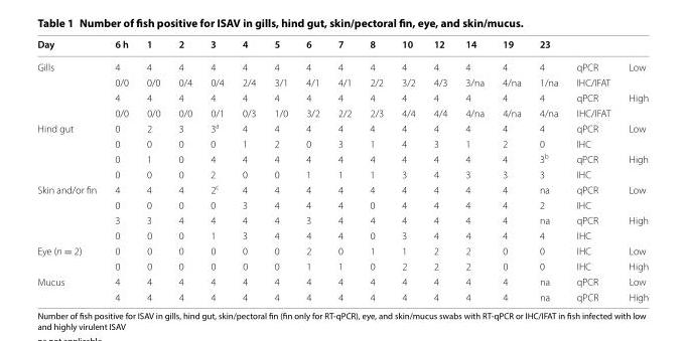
<table><thead><tr><td>Day</td><td>6 h</td><td>1</td><td>2</td><td>3</td><td>4</td><td>5</td><td>6</td><td>7</td><td>8</td><td>10</td><td>12</td><td>14</td><td>19</td><td>23</td><td></td><td></td></tr></thead><tbody><tr><td rowspan="4">Gills</td><td>4</td><td>4</td><td>4</td><td>4</td><td>4</td><td>4</td><td>4</td><td>4</td><td>4</td><td>4</td><td>4</td><td>4</td><td>4</td><td>4</td><td>qPCR</td><td rowspan="2">Low</td></tr><tr><td>0/0</td><td>0/0</td><td>0/4</td><td>0/4</td><td>2/4</td><td>3/1</td><td>4/1</td><td>4/1</td><td>2/2</td><td>3/2</td><td>4/3</td><td>3/na</td><td>4/na</td><td>1/na</td><td>IHC/IFAT</td></tr><tr><td>4</td><td>4</td><td>4</td><td>4</td><td>4</td><td>4</td><td>4</td><td>4</td><td>4</td><td>4</td><td>4</td><td>4</td><td>4</td><td>4</td><td>qPCR</td><td rowspan="2">High</td></tr><tr><td>0/0</td><td>0/0</td><td>0/0</td><td>0/1</td><td>0/3</td><td>1/0</td><td>3/2</td><td>2/2</td><td>2/3</td><td>4/4</td><td>4/4</td><td>4/na</td><td>4/na</td><td>4/na</td><td>IHC/IFAT</td></tr><tr><td rowspan="4">Hind gut</td><td>0</td><td>2</td><td>3</td><td>3<sup>a</sup></td><td>4</td><td>4</td><td>4</td><td>4</td><td>4</td><td>4</td><td>4</td><td>4</td><td>4</td><td>4</td><td>qPCR</td><td rowspan="2">Low</td></tr><tr><td>0</td><td>0</td><td>0</td><td>0</td><td>1</td><td>2</td><td>0</td><td>3</td><td>1</td><td>4</td><td>3</td><td>1</td><td>2</td><td>0</td><td>IHC</td></tr><tr><td>0</td><td>1</td><td>0</td><td>4</td><td>4</td><td>4</td><td>4</td><td>4</td><td>4</td><td>4</td><td>4</td><td>4</td><td>4</td><td>3<sup>b</sup></td><td>qPCR</td><td rowspan="2">High</td></tr><tr><td>0</td><td>0</td><td>0</td><td>2</td><td>0</td><td>0</td><td>1</td><td>1</td><td>1</td><td>3</td><td>4</td><td>3</td><td>3</td><td>3</td><td>IHC</td></tr><tr><td rowspan="4">Skin and/or fin</td><td>4</td><td>4</td><td>4</td><td>2<sup>c</sup></td><td>4</td><td>4</td><td>4</td><td>4</td><td>4</td><td>4</td><td>4</td><td>4</td><td>4</td><td>na</td><td>qPCR</td><td rowspan="2">Low</td></tr><tr><td>0</td><td>0</td><td>0</td><td>0</td><td>3</td><td>4</td><td>4</td><td>4</td><td>0</td><td>4</td><td>4</td><td>4</td><td>4</td><td>2</td><td>IHC</td></tr><tr><td>3</td><td>3</td><td>4</td><td>4</td><td>4</td><td>4</td><td>3</td><td>4</td><td>4</td><td>4</td><td>4</td><td>4</td><td>4</td><td>na</td><td>qPCR</td><td rowspan="2">High</td></tr><tr><td>0</td><td>0</td><td>0</td><td>1</td><td>3</td><td>4</td><td>4</td><td>4</td><td>0</td><td>3</td><td>4</td><td>4</td><td>4</td><td>4</td><td>IHC</td></tr><tr><td rowspan="2">Eye (n = 2)</td><td>0</td><td>0</td><td>0</td><td>0</td><td>0</td><td>0</td><td>2</td><td>0</td><td>1</td><td>1</td><td>2</td><td>2</td><td>0</td><td>0</td><td>IHC</td><td>Low</td></tr><tr><td>0</td><td>0</td><td>0</td><td>0</td><td>0</td><td>0</td><td>1</td><td>1</td><td>0</td><td>2</td><td>2</td><td>2</td><td>0</td><td>0</td><td>IHC</td><td>High</td></tr><tr><td rowspan="2">Mucus</td><td>4</td><td>4</td><td>4</td><td>4</td><td>4</td><td>4</td><td>4</td><td>4</td><td>4</td><td>4</td><td>4</td><td>4</td><td>4</td><td>na</td><td>qPCR</td><td>Low</td></tr><tr><td>4</td><td>4</td><td>4</td><td>4</td><td>4</td><td>4</td><td>4</td><td>4</td><td>4</td><td>4</td><td>4</td><td>4</td><td>4</td><td>na</td><td>qPCR</td><td>High</td></tr></tbody></table>